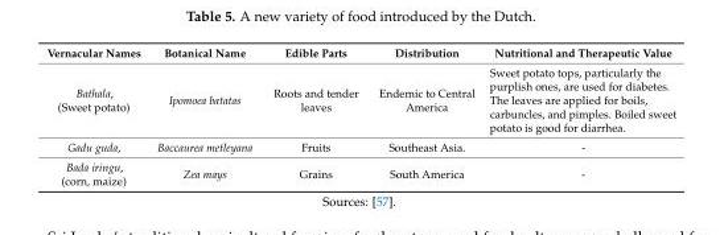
<table><thead><tr><td>Vernacular Names</td><td>Botanical Name</td><td>Edible Parts</td><td>Distribution</td><td>Nutritional and Therapeutic Value</td></tr></thead><tbody><tr><td>Bathala, (Sweet potato)</td><td>Ipomoea batatas</td><td>Roots and tender leaves</td><td>Endemic to Central America</td><td>Sweet potato tops, particularly the purplish ones, are used for diabetes. The leaves are applied for boils, carbuncles, and pimples. Boiled sweet potato is good for diarrhea.</td></tr><tr><td>Gadu guda,</td><td>Baccaurea metleyana</td><td>Fruits</td><td>Southeast Asia.</td><td>-</td></tr><tr><td>Bada iringu, (corn, maize)</td><td>Zea mays</td><td>Grains</td><td>South America</td><td>-</td></tr></tbody></table>